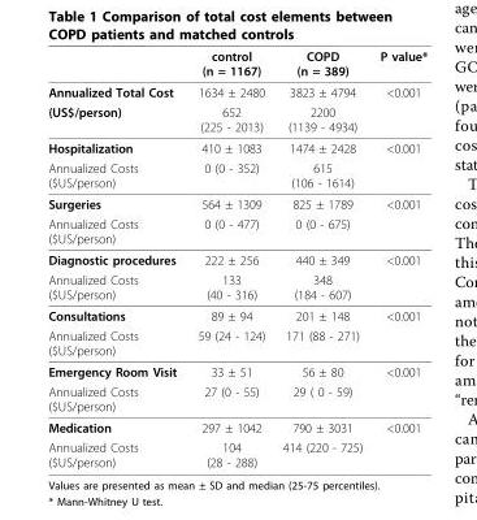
<table><thead><tr><td></td><td>control (n = 1167)</td><td>COPD (n = 389)</td><td>P value*</td></tr></thead><tbody><tr><td>Annualized Total Cost</td><td>1634 ± 2480</td><td>3823 ± 4794</td><td>&lt;0.001</td></tr><tr><td>(US$/person)</td><td>652 (225 - 2013)</td><td>2200 (1139 - 4934)</td><td></td></tr><tr><td>Hospitalization</td><td>410 ± 1083</td><td>1474 ± 2428</td><td>&lt;0.001</td></tr><tr><td>Annualized Costs ($US/person)</td><td>0 (0 - 352)</td><td>615 (106 - 1614)</td><td></td></tr><tr><td>Surgeries</td><td>564 ± 1309</td><td>825 ± 1789</td><td>&lt;0.001</td></tr><tr><td>Annualized Costs ($US/person)</td><td>0 (0 - 477)</td><td>0 (0 - 675)</td><td></td></tr><tr><td>Diagnostic procedures</td><td>222 ± 256</td><td>440 ± 349</td><td>&lt;0.001</td></tr><tr><td>Annualized Costs ($US/person)</td><td>133 (40 - 316)</td><td>348 (184 - 607)</td><td></td></tr><tr><td>Consultations</td><td>89 ± 94</td><td>201 ± 148</td><td>&lt;0.001</td></tr><tr><td>Annualized Costs ($US/person)</td><td>59 (24 - 124)</td><td>171 (88 - 271)</td><td></td></tr><tr><td>Emergency Room Visit</td><td>33 ± 51</td><td>56 ± 80</td><td>&lt;0.001</td></tr><tr><td>Annualized Costs ($US/person)</td><td>27 (0 - 55)</td><td>29 ( 0 - 59)</td><td></td></tr><tr><td>Medication</td><td>297 ± 1042</td><td>790 ± 3031</td><td>&lt;0.001</td></tr><tr><td>Annualized Costs ($US/person)</td><td>104 (28 - 288)</td><td>414 (220 - 725)</td><td></td></tr></tbody></table>